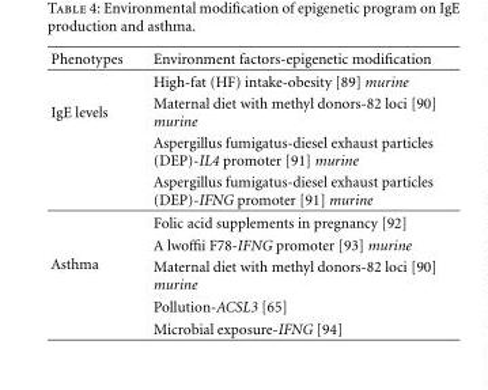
<table><thead><tr><td>Phenotypes</td><td>Environment factors-epigenetic modification</td></tr></thead><tbody><tr><td rowspan="4">IgE levels</td><td>High-fat (HF) intake-obesity [89] murine</td></tr><tr><td>Maternal diet with methyl donors-82 loci [90] murine</td></tr><tr><td>Aspergillus fumigatus-diesel exhaust particles (DEP)-IL4 promoter [91] murine</td></tr><tr><td>Aspergillus fumigatus-diesel exhaust particles (DEP)-IFNG promoter [91] murine</td></tr><tr><td rowspan="5">Asthma</td><td>Folic acid supplements in pregnancy [92]</td></tr><tr><td>A lwoffii F78-IFNG promoter [93] murine</td></tr><tr><td>Maternal diet with methyl donors-82 loci [90] murine</td></tr><tr><td>Pollution-ACSL3 [65]</td></tr><tr><td>Microbial exposure-IFNG [94]</td></tr></tbody></table>